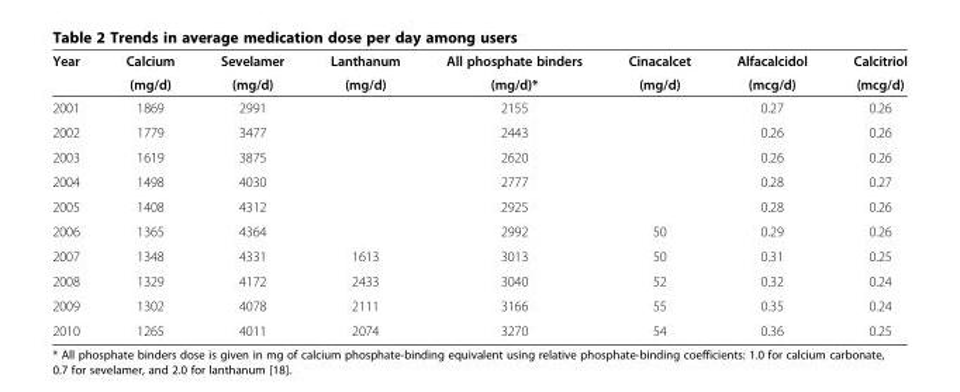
<table><thead><tr><td rowspan="2">Year</td><td rowspan="2">Calcium (mg/d)</td><td rowspan="2">Sevelamer (mg/d)</td><td rowspan="2">Lanthanum (mg/d)</td><td rowspan="2">All phosphate binders (mg/d)*</td><td rowspan="2">Cinacalcet (mg/d)</td><td rowspan="2">Alfacalcidol (mcg/d)</td><td rowspan="2">Calcitriol (mcg/d)</td></tr><tr></tr></thead><tbody><tr><td>2001</td><td>1869</td><td>2991</td><td></td><td>2155</td><td></td><td>0.27</td><td>0.26</td></tr><tr><td>2002</td><td>1779</td><td>3477</td><td></td><td>2443</td><td></td><td>0.26</td><td>0.26</td></tr><tr><td>2003</td><td>1619</td><td>3875</td><td></td><td>2620</td><td></td><td>0.26</td><td>0.26</td></tr><tr><td>2004</td><td>1498</td><td>4030</td><td></td><td>2777</td><td></td><td>0.28</td><td>0.27</td></tr><tr><td>2005</td><td>1408</td><td>4312</td><td></td><td>2925</td><td></td><td>0.28</td><td>0.26</td></tr><tr><td>2006</td><td>1365</td><td>4364</td><td></td><td>2992</td><td>50</td><td>0.29</td><td>0.26</td></tr><tr><td>2007</td><td>1348</td><td>4331</td><td>1613</td><td>3013</td><td>50</td><td>0.31</td><td>0.25</td></tr><tr><td>2008</td><td>1329</td><td>4172</td><td>2433</td><td>3040</td><td>52</td><td>0.32</td><td>0.24</td></tr><tr><td>2009</td><td>1302</td><td>4078</td><td>2111</td><td>3166</td><td>55</td><td>0.35</td><td>0.24</td></tr><tr><td>2010</td><td>1265</td><td>4011</td><td>2074</td><td>3270</td><td>54</td><td>0.36</td><td>0.25</td></tr></tbody></table>